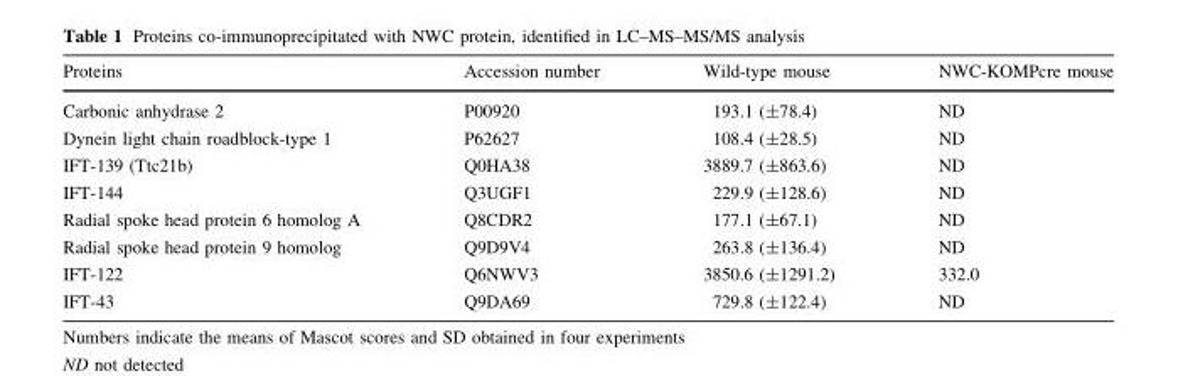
<table><thead><tr><td>Proteins</td><td>Accession number</td><td>Wild-type mouse</td><td>NWC-KOMPcre mouse</td></tr></thead><tbody><tr><td>Carbonic anhydrase 2</td><td>P00920</td><td>193.1 (±78.4)</td><td>ND</td></tr><tr><td>Dynein light chain roadblock-type 1</td><td>P62627</td><td>108.4 (±28.5)</td><td>ND</td></tr><tr><td>IFT-139 (Ttc21b)</td><td>Q0HA38</td><td>3889.7 (±863.6)</td><td>ND</td></tr><tr><td>IFT-144</td><td>Q3UGF1</td><td>229.9 (±128.6)</td><td>ND</td></tr><tr><td>Radial spoke head protein 6 homolog A</td><td>Q8CDR2</td><td>177.1 (±67.1)</td><td>ND</td></tr><tr><td>Radial spoke head protein 9 homolog</td><td>Q9D9V4</td><td>263.8 (±136.4)</td><td>ND</td></tr><tr><td>IFT-122</td><td>Q6NWV3</td><td>3850.6 (±1291.2)</td><td>332.0</td></tr><tr><td>IFT-43</td><td>Q9DA69</td><td>729.8 (±122.4)</td><td>ND</td></tr></tbody></table>